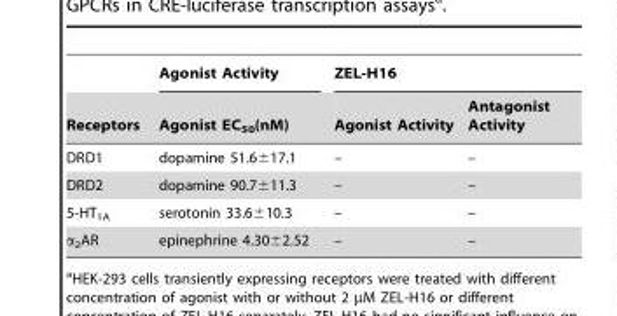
<table><thead><tr><td rowspan="2">Receptors</td><td rowspan="2">Agonist Activity Agonist EC50(nM)</td><td colspan="2">ZEL-H16</td></tr><tr><td>Agonist Activity</td><td>Antagonist Activity</td></tr></thead><tbody><tr><td>DRD1</td><td>dopamine 51.6±17.1</td><td>–</td><td>–</td></tr><tr><td>DRD2</td><td>dopamine 90.7±11.3</td><td>–</td><td>–</td></tr><tr><td>5-HT<sub>1A</sub></td><td>serotonin 33.6±10.3</td><td>–</td><td>–</td></tr><tr><td>α<sub>2</sub>AR</td><td>epinephrine 4.30±2.52</td><td>–</td><td>–</td></tr></tbody></table>